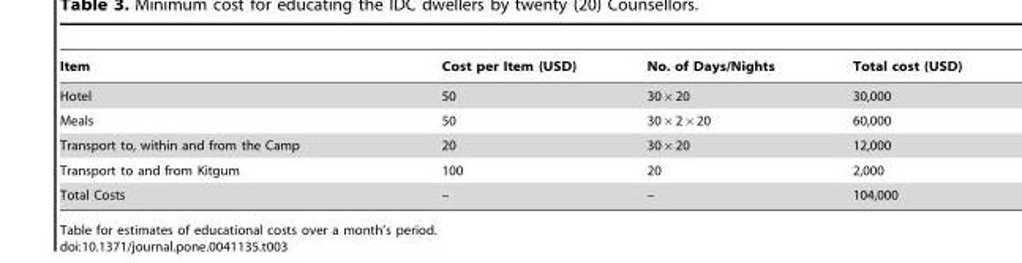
<table><thead><tr><td>Item</td><td>Cost per Item (USD)</td><td>No. of Days/Nights</td><td>Total cost (USD)</td></tr></thead><tbody><tr><td>Hotel</td><td>50</td><td>30|20</td><td>30,000</td></tr><tr><td>Meals</td><td>50</td><td>30|2|20</td><td>60,000</td></tr><tr><td>Transport to, within and from the Camp</td><td>20</td><td>30|20</td><td>12,000</td></tr><tr><td>Transport to and from Kitgum</td><td>100</td><td>20</td><td>2,000</td></tr><tr><td>Total Costs</td><td>–</td><td>–</td><td>104,000</td></tr></tbody></table>